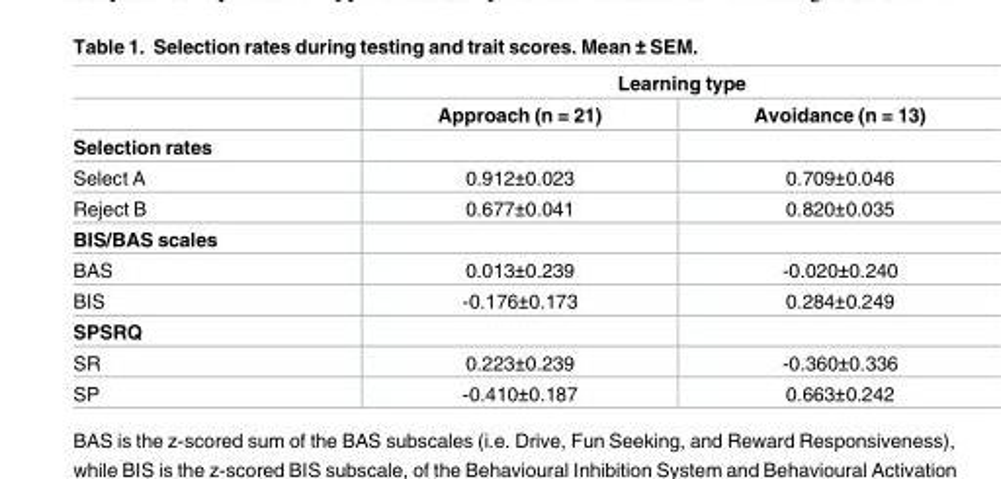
<table><thead><tr><td rowspan="2"></td><td colspan="2">Learning type</td></tr><tr><td>Approach (n = 21)</td><td>Avoidance (n = 13)</td></tr></thead><tbody><tr><td colspan="3">Selection rates</td></tr><tr><td>Select A</td><td>0.912±0.023</td><td>0.709±0.046</td></tr><tr><td>Reject B</td><td>0.677±0.041</td><td>0.820±0.035</td></tr><tr><td colspan="3">BIS/BAS scales</td></tr><tr><td>BAS</td><td>0.013±0.239</td><td>-0.020±0.240</td></tr><tr><td>BIS</td><td>-0.176±0.173</td><td>0.284±0.249</td></tr><tr><td colspan="3">SPSRQ</td></tr><tr><td>SR</td><td>0.223±0.239</td><td>-0.360±0.336</td></tr><tr><td>SP</td><td>-0.410±0.187</td><td>0.663±0.242</td></tr></tbody></table>